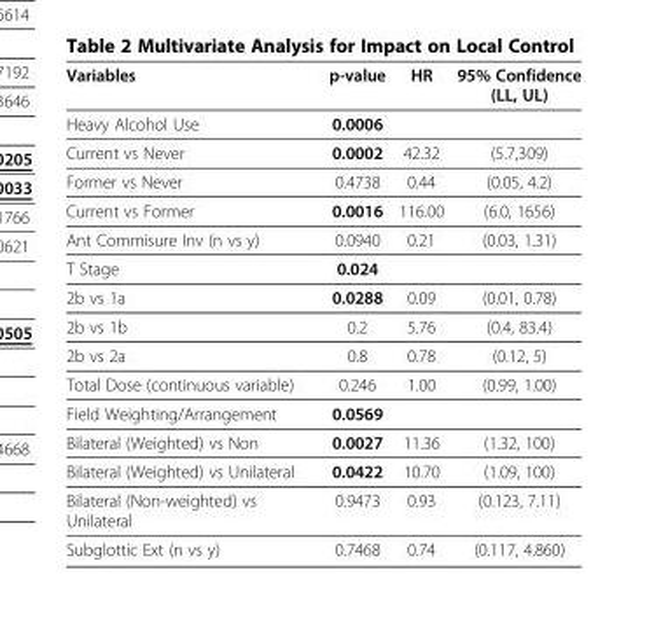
<table><thead><tr><td>Variables</td><td>p-value</td><td>HR</td><td>95% Confidence (LL, UL)</td></tr></thead><tbody><tr><td>Heavy Alcohol Use</td><td>0.0006</td><td></td><td></td></tr><tr><td>Current vs Never</td><td>0.0002</td><td>42.32</td><td>(5.7,309)</td></tr><tr><td>Former vs Never</td><td>0.4738</td><td>0.44</td><td>(0.05, 4.2)</td></tr><tr><td>Current vs Former</td><td>0.0016</td><td>116.00</td><td>(6.0, 1656)</td></tr><tr><td>Ant Commisure Inv (n vs y)</td><td>0.0940</td><td>0.21</td><td>(0.03, 1.31)</td></tr><tr><td>T Stage</td><td>0.024</td><td></td><td></td></tr><tr><td>2b vs 1a</td><td>0.0288</td><td>0.09</td><td>(0.01, 0.78)</td></tr><tr><td>2b vs 1b</td><td>0.2</td><td>5.76</td><td>(0.4, 83.4)</td></tr><tr><td>2b vs 2a</td><td>0.8</td><td>0.78</td><td>(0.12, 5)</td></tr><tr><td>Total Dose (continuous variable)</td><td>0.246</td><td>1.00</td><td>(0.99, 1.00)</td></tr><tr><td>Field Weighting/Arrangement</td><td>0.0569</td><td></td><td></td></tr><tr><td>Bilateral (Weighted) vs Non</td><td>0.0027</td><td>11.36</td><td>(1.32, 100)</td></tr><tr><td>Bilateral (Weighted) vs Unilateral</td><td>0.0422</td><td>10.70</td><td>(1.09, 100)</td></tr><tr><td>Bilateral (Non-weighted) vs Unilateral</td><td>0.9473</td><td>0.93</td><td>(0.123, 7.11)</td></tr><tr><td>Subglottic Ext (n vs y)</td><td>0.7468</td><td>0.74</td><td>(0.117, 4.860)</td></tr></tbody></table>